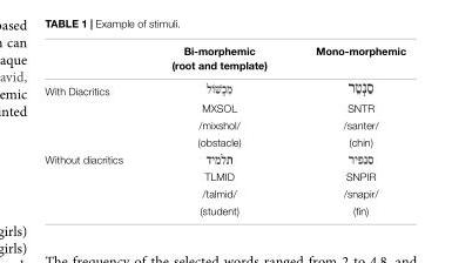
<table><thead><tr><td></td><td>Bi-morphemic (root and template)</td><td>Mono-morphemic</td></tr></thead><tbody><tr><td colspan="3">With Diacritics</td></tr><tr><td></td><td>MXSOL</td><td>SNTR</td></tr><tr><td></td><td>/mixshol/</td><td>/santer/</td></tr><tr><td></td><td>(obstacle)</td><td>(chin)</td></tr><tr><td colspan="3">Without diacritics</td></tr><tr><td></td><td>TLMID</td><td>SNPIR</td></tr><tr><td></td><td>/talmid/</td><td>/snapir/</td></tr><tr><td></td><td>(student)</td><td>(fin)</td></tr></tbody></table>